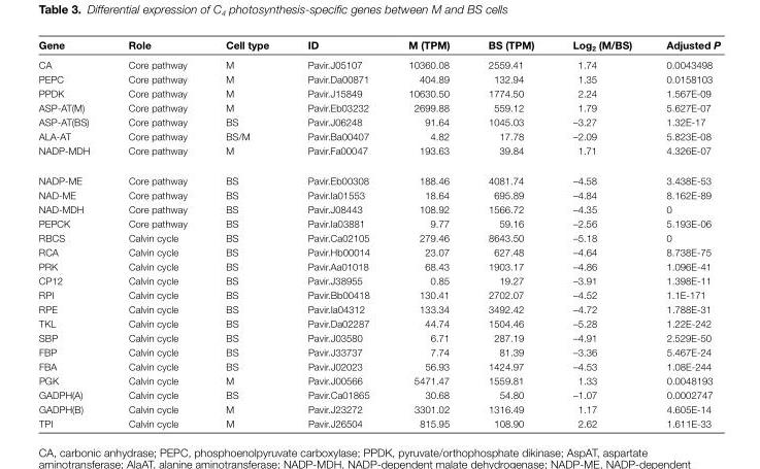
<table><thead><tr><td>Gene</td><td>Role</td><td>Cell type</td><td>ID</td><td>M (TPM)</td><td>BS (TPM)</td><td>Log<sub>2</sub> (M/BS)</td><td>Adjusted P</td></tr></thead><tbody><tr><td>CA</td><td>Core pathway</td><td>M</td><td>Pavir.J05107</td><td>10360.08</td><td>2559.41</td><td>1.74</td><td>0.0043498</td></tr><tr><td>PEPC</td><td>Core pathway</td><td>M</td><td>Pavir.Da00871</td><td>404.89</td><td>132.94</td><td>1.35</td><td>0.0158103</td></tr><tr><td>PPDK</td><td>Core pathway</td><td>M</td><td>Pavir.J15849</td><td>10630.50</td><td>1774.50</td><td>2.24</td><td>1.567E-09</td></tr><tr><td>ASP-AT(M)</td><td>Core pathway</td><td>M</td><td>Pavir.Eb03232</td><td>2699.88</td><td>559.12</td><td>1.79</td><td>5.627E-07</td></tr><tr><td>ASP-AT(BS)</td><td>Core pathway</td><td>BS</td><td>Pavir.J06248</td><td>91.64</td><td>1045.03</td><td>–3.27</td><td>1.32E-17</td></tr><tr><td>ALA-AT</td><td>Core pathway</td><td>BS/M</td><td>Pavir.Ba00407</td><td>4.82</td><td>17.78</td><td>–2.09</td><td>5.823E-08</td></tr><tr><td>NADP-MDH</td><td>Core pathway</td><td>M</td><td>Pavir.Fa00047</td><td>193.63</td><td>39.84</td><td>1.71</td><td>4.326E-07</td></tr><tr><td>NADP-ME</td><td>Core pathway</td><td>BS</td><td>Pavir.Eb00308</td><td>188.46</td><td>4081.74</td><td>–4.58</td><td>3.438E-53</td></tr><tr><td>NAD-ME</td><td>Core pathway</td><td>BS</td><td>Pavir.Ia01553</td><td>18.64</td><td>695.89</td><td>–4.84</td><td>8.162E-89</td></tr><tr><td>NAD-MDH</td><td>Core pathway</td><td>BS</td><td>Pavir.J08443</td><td>108.92</td><td>1566.72</td><td>–4.35</td><td>0</td></tr><tr><td>PEPCK</td><td>Core pathway</td><td>BS</td><td>Pavir.Ia03881</td><td>9.77</td><td>59.16</td><td>–2.56</td><td>5.193E-06</td></tr><tr><td>RBCS</td><td>Calvin cycle</td><td>BS</td><td>Pavir.Ca02105</td><td>279.46</td><td>8643.50</td><td>–5.18</td><td>0</td></tr><tr><td>RCA</td><td>Calvin cycle</td><td>BS</td><td>Pavir.Hb00014</td><td>23.07</td><td>627.48</td><td>–4.64</td><td>8.738E-75</td></tr><tr><td>PRK</td><td>Calvin cycle</td><td>BS</td><td>Pavir.Aa01018</td><td>68.43</td><td>1903.17</td><td>–4.86</td><td>1.096E-41</td></tr><tr><td>CP12</td><td>Calvin cycle</td><td>BS</td><td>Pavir.J38955</td><td>0.85</td><td>19.27</td><td>–3.91</td><td>1.398E-11</td></tr><tr><td>RPI</td><td>Calvin cycle</td><td>BS</td><td>Pavir.Bb00418</td><td>130.41</td><td>2702.07</td><td>–4.52</td><td>1.1E-171</td></tr><tr><td>RPE</td><td>Calvin cycle</td><td>BS</td><td>Pavir.Ia04312</td><td>133.34</td><td>3492.42</td><td>–4.72</td><td>1.788E-31</td></tr><tr><td>TKL</td><td>Calvin cycle</td><td>BS</td><td>Pavir.Da02287</td><td>44.74</td><td>1504.46</td><td>–5.28</td><td>1.22E-242</td></tr><tr><td>SBP</td><td>Calvin cycle</td><td>BS</td><td>Pavir.J03580</td><td>6.71</td><td>287.19</td><td>–4.91</td><td>2.529E-50</td></tr><tr><td>FBP</td><td>Calvin cycle</td><td>BS</td><td>Pavir.J33737</td><td>7.74</td><td>81.39</td><td>–3.36</td><td>5.467E-24</td></tr><tr><td>FBA</td><td>Calvin cycle</td><td>BS</td><td>Pavir.J02023</td><td>56.93</td><td>1424.97</td><td>–4.53</td><td>1.08E-244</td></tr><tr><td>PGK</td><td>Calvin cycle</td><td>M</td><td>Pavir.J00566</td><td>5471.47</td><td>1559.81</td><td>1.33</td><td>0.0048193</td></tr><tr><td>GADPH(A)</td><td>Calvin cycle</td><td>BS</td><td>Pavir.Ca01865</td><td>30.68</td><td>54.80</td><td>–1.07</td><td>0.0002747</td></tr><tr><td>GADPH(B)</td><td>Calvin cycle</td><td>M</td><td>Pavir.J23272</td><td>3301.02</td><td>1316.49</td><td>1.17</td><td>4.605E-14</td></tr><tr><td>TPI</td><td>Calvin cycle</td><td>M</td><td>Pavir.J26504</td><td>815.95</td><td>108.90</td><td>2.62</td><td>1.611E-33</td></tr></tbody></table>